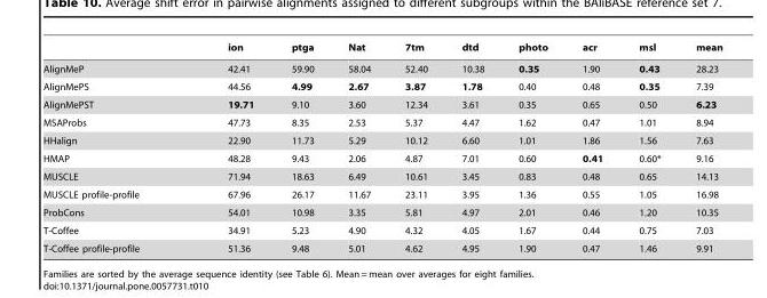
<table><thead><tr><td></td><td>ion</td><td>ptga</td><td>Nat</td><td>7tm</td><td>dtd</td><td>photo</td><td>acr</td><td>msl</td><td>mean</td></tr></thead><tbody><tr><td>AlignMeP</td><td>42.41</td><td>59.90</td><td>58.04</td><td>52.40</td><td>10.38</td><td>0.35</td><td>1.90</td><td>0.43</td><td>28.23</td></tr><tr><td>AlignMePS</td><td>44.56</td><td>4.99</td><td>2.67</td><td>3.87</td><td>1.78</td><td>0.40</td><td>0.48</td><td>0.35</td><td>7.39</td></tr><tr><td>AlignMePST</td><td>19.71</td><td>9.10</td><td>3.60</td><td>12.34</td><td>3.61</td><td>0.35</td><td>0.65</td><td>0.50</td><td>6.23</td></tr><tr><td>MSAProbs</td><td>47.73</td><td>8.35</td><td>2.53</td><td>5.37</td><td>4.47</td><td>1.62</td><td>0.47</td><td>1.01</td><td>8.94</td></tr><tr><td>HHalign</td><td>22.90</td><td>11.73</td><td>5.29</td><td>10.12</td><td>6.60</td><td>1.01</td><td>1.86</td><td>1.56</td><td>7.63</td></tr><tr><td>HMAP</td><td>48.28</td><td>9.43</td><td>2.06</td><td>4.87</td><td>7.01</td><td>0.60</td><td>0.41</td><td>0.60*</td><td>9.16</td></tr><tr><td>MUSCLE</td><td>71.94</td><td>18.63</td><td>6.49</td><td>10.61</td><td>3.45</td><td>0.83</td><td>0.48</td><td>0.65</td><td>14.13</td></tr><tr><td>MUSCLE profile-profile</td><td>67.96</td><td>26.17</td><td>11.67</td><td>23.11</td><td>3.95</td><td>1.36</td><td>0.55</td><td>1.05</td><td>16.98</td></tr><tr><td>ProbCons</td><td>54.01</td><td>10.98</td><td>3.35</td><td>5.81</td><td>4.97</td><td>2.01</td><td>0.46</td><td>1.20</td><td>10.35</td></tr><tr><td>T-Coffee</td><td>34.91</td><td>5.23</td><td>4.90</td><td>4.32</td><td>4.05</td><td>1.67</td><td>0.44</td><td>0.75</td><td>7.03</td></tr><tr><td>T-Coffee profile-profile</td><td>51.36</td><td>9.48</td><td>5.01</td><td>4.62</td><td>4.95</td><td>1.90</td><td>0.47</td><td>1.46</td><td>9.91</td></tr></tbody></table>